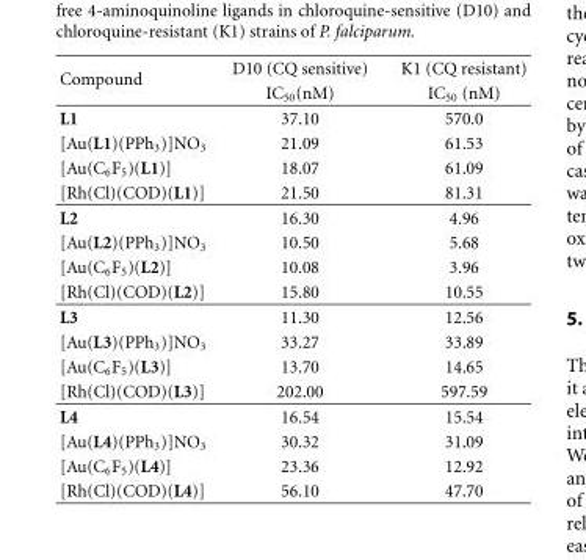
<table><thead><tr><td rowspan="2">Compound</td><td rowspan="2">D10 (CQ sensitive) IC<sub>50</sub>(nM)</td><td rowspan="2">K1 (CQ resistant) IC<sub>50</sub> (nM)</td></tr><tr></tr></thead><tbody><tr><td>L1</td><td>37.10</td><td>570.0</td></tr><tr><td>[Au(L1)(PPh<sub>3</sub>)]NO<sub>3</sub></td><td>21.09</td><td>61.53</td></tr><tr><td>[Au(C<sub>6</sub>F<sub>5</sub>)(L1)]</td><td>18.07</td><td>61.09</td></tr><tr><td>[Rh(Cl)(COD)(L1)]</td><td>21.50</td><td>81.31</td></tr><tr><td>L2</td><td>16.30</td><td>4.96</td></tr><tr><td>[Au(L2)(PPh<sub>3</sub>)]NO<sub>3</sub></td><td>10.50</td><td>5.68</td></tr><tr><td>[Au(C<sub>6</sub>F<sub>5</sub>)(L2)]</td><td>10.08</td><td>3.96</td></tr><tr><td>[Rh(Cl)(COD)(L2)]</td><td>15.80</td><td>10.55</td></tr><tr><td>L3</td><td>11.30</td><td>12.56</td></tr><tr><td>[Au(L3)(PPh<sub>3</sub>)]NO<sub>3</sub></td><td>33.27</td><td>33.89</td></tr><tr><td>[Au(C<sub>6</sub>F<sub>5</sub>)(L3)]</td><td>13.70</td><td>14.65</td></tr><tr><td>[Rh(Cl)(COD)(L3)]</td><td>202.00</td><td>597.59</td></tr><tr><td>L4</td><td>16.54</td><td>15.54</td></tr><tr><td>[Au(L4)(PPh<sub>3</sub>)]NO<sub>3</sub></td><td>30.32</td><td>31.09</td></tr><tr><td>[Au(C<sub>6</sub>F<sub>5</sub>)(L4)]</td><td>23.36</td><td>12.92</td></tr><tr><td>[Rh(Cl)(COD)(L4)]</td><td>56.10</td><td>47.70</td></tr></tbody></table>